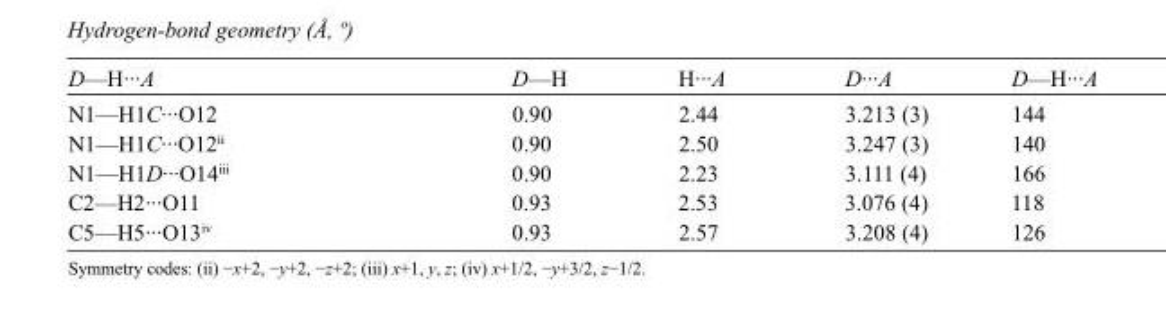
<table><tbody><tr><td>D—H···A</td><td>D—H</td><td>H···A</td><td>D···A</td><td>D—H···A</td></tr><tr><td>N1—H1C···O12</td><td>0.90</td><td>2.44</td><td>3.213 (3)</td><td>144</td></tr><tr><td>N1—H1C···O12<sup>ii</sup></td><td>0.90</td><td>2.50</td><td>3.247 (3)</td><td>140</td></tr><tr><td>N1—H1D···O14<sup>iii</sup></td><td>0.90</td><td>2.23</td><td>3.111 (4)</td><td>166</td></tr><tr><td>C2—H2···O11</td><td>0.93</td><td>2.53</td><td>3.076 (4)</td><td>118</td></tr><tr><td>C5—H5···O13<sup>iv</sup></td><td>0.93</td><td>2.57</td><td>3.208 (4)</td><td>126</td></tr></tbody></table>